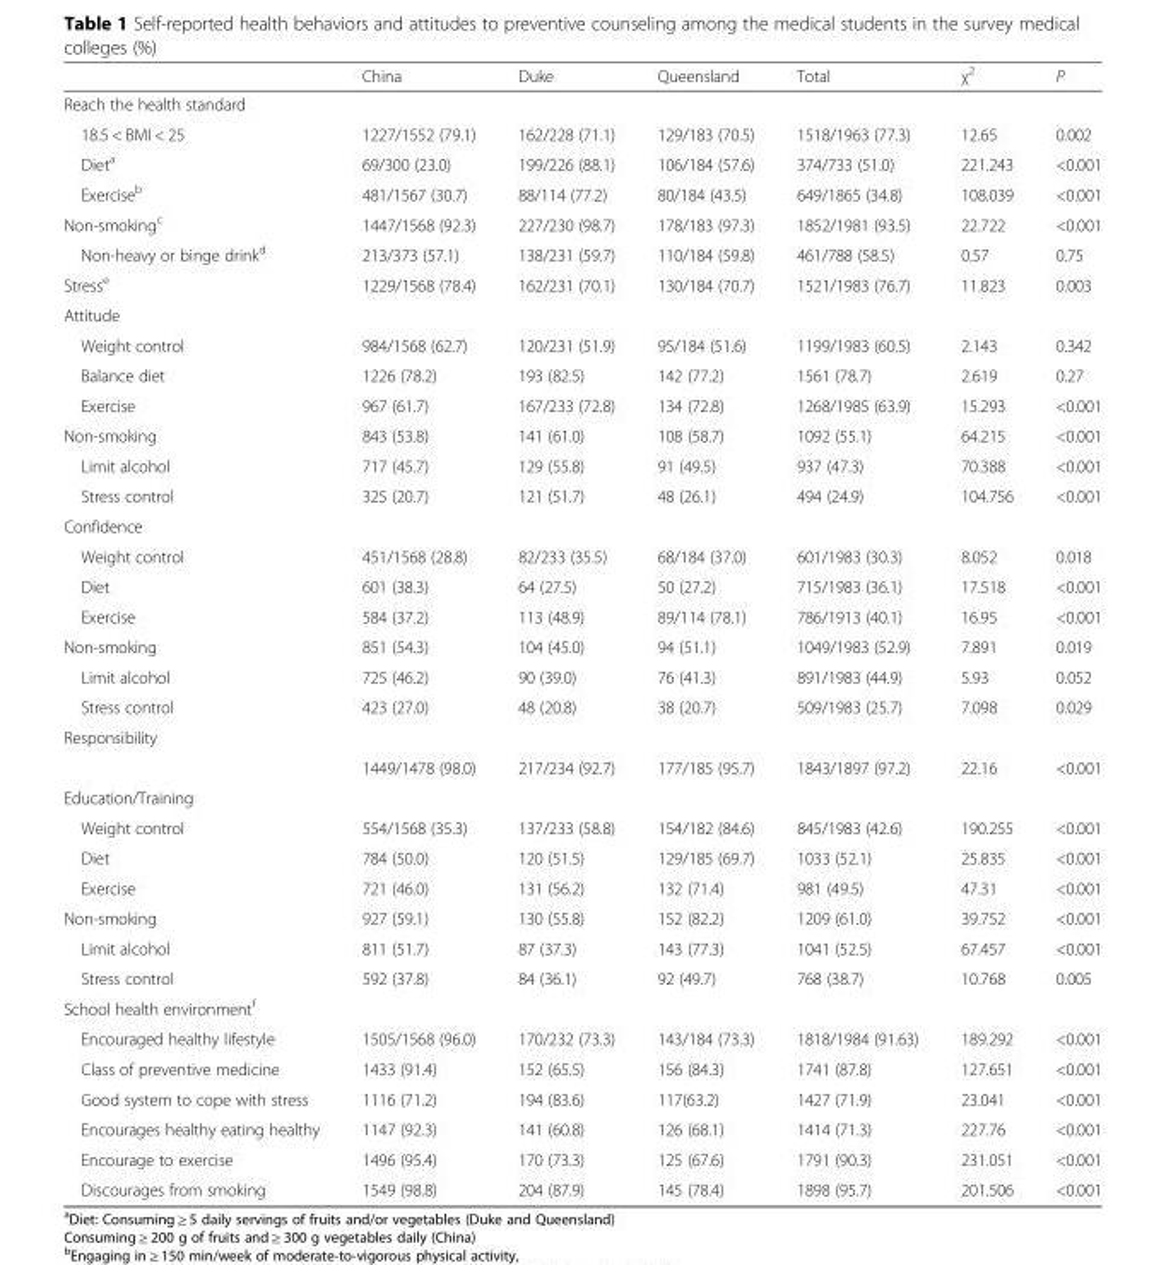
<table><thead><tr><td></td><td>China</td><td>Duke</td><td>Queensland</td><td>Total</td><td>χ<sup>2</sup></td><td>P</td></tr></thead><tbody><tr><td colspan="7">Reach the health standard</td></tr><tr><td>18.5 &lt; BMI &lt; 25</td><td>1227/1552 (79.1)</td><td>162/228 (71.1)</td><td>129/183 (70.5)</td><td>1518/1963 (77.3)</td><td>12.65</td><td>0.002</td></tr><tr><td>Diet<sup>a</sup></td><td>69/300 (23.0)</td><td>199/226 (88.1)</td><td>106/184 (57.6)</td><td>374/733 (51.0)</td><td>221.243</td><td>&lt;0.001</td></tr><tr><td>Exercise<sup>b</sup></td><td>481/1567 (30.7)</td><td>88/114 (77.2)</td><td>80/184 (43.5)</td><td>649/1865 (34.8)</td><td>108.039</td><td>&lt;0.001</td></tr><tr><td>Non-smoking<sup>c</sup></td><td>1447/1568 (92.3)</td><td>227/230 (98.7)</td><td>178/183 (97.3)</td><td>1852/1981 (93.5)</td><td>22.722</td><td>&lt;0.001</td></tr><tr><td>Non-heavy or binge drink<sup>d</sup></td><td>213/373 (57.1)</td><td>138/231 (59.7)</td><td>110/184 (59.8)</td><td>461/788 (58.5)</td><td>0.57</td><td>0.75</td></tr><tr><td>Stress<sup>e</sup></td><td>1229/1568 (78.4)</td><td>162/231 (70.1)</td><td>130/184 (70.7)</td><td>1521/1983 (76.7)</td><td>11.823</td><td>0.003</td></tr><tr><td colspan="7">Attitude</td></tr><tr><td>Weight control</td><td>984/1568 (62.7)</td><td>120/231 (51.9)</td><td>95/184 (51.6)</td><td>1199/1983 (60.5)</td><td>2.143</td><td>0.342</td></tr><tr><td>Balance diet</td><td>1226 (78.2)</td><td>193 (82.5)</td><td>142 (77.2)</td><td>1561 (78.7)</td><td>2.619</td><td>0.27</td></tr><tr><td>Exercise</td><td>967 (61.7)</td><td>167/233 (72.8)</td><td>134 (72.8)</td><td>1268/1985 (63.9)</td><td>15.293</td><td>&lt;0.001</td></tr><tr><td>Non-smoking</td><td>843 (53.8)</td><td>141 (61.0)</td><td>108 (58.7)</td><td>1092 (55.1)</td><td>64.215</td><td>&lt;0.001</td></tr><tr><td>Limit alcohol</td><td>717 (45.7)</td><td>129 (55.8)</td><td>91 (49.5)</td><td>937 (47.3)</td><td>70.388</td><td>&lt;0.001</td></tr><tr><td>Stress control</td><td>325 (20.7)</td><td>121 (51.7)</td><td>48 (26.1)</td><td>494 (24.9)</td><td>104.756</td><td>&lt;0.001</td></tr><tr><td colspan="7">Confidence</td></tr><tr><td>Weight control</td><td>451/1568 (28.8)</td><td>82/233 (35.5)</td><td>68/184 (37.0)</td><td>601/1983 (30.3)</td><td>8.052</td><td>0.018</td></tr><tr><td>Diet</td><td>601 (38.3)</td><td>64 (27.5)</td><td>50 (27.2)</td><td>715/1983 (36.1)</td><td>17.518</td><td>&lt;0.001</td></tr><tr><td>Exercise</td><td>584 (37.2)</td><td>113 (48.9)</td><td>89/114 (78.1)</td><td>786/1913 (40.1)</td><td>16.95</td><td>&lt;0.001</td></tr><tr><td>Non-smoking</td><td>851 (54.3)</td><td>104 (45.0)</td><td>94 (51.1)</td><td>1049/1983 (52.9)</td><td>7.891</td><td>0.019</td></tr><tr><td>Limit alcohol</td><td>725 (46.2)</td><td>90 (39.0)</td><td>76 (41.3)</td><td>891/1983 (44.9)</td><td>5.93</td><td>0.052</td></tr><tr><td>Stress control</td><td>423 (27.0)</td><td>48 (20.8)</td><td>38 (20.7)</td><td>509/1983 (25.7)</td><td>7.098</td><td>0.029</td></tr><tr><td colspan="7">Responsibility</td></tr><tr><td></td><td>1449/1478 (98.0)</td><td>217/234 (92.7)</td><td>177/185 (95.7)</td><td>1843/1897 (97.2)</td><td>22.16</td><td>&lt;0.001</td></tr><tr><td colspan="7">Education/Training</td></tr><tr><td>Weight control</td><td>554/1568 (35.3)</td><td>137/233 (58.8)</td><td>154/182 (84.6)</td><td>845/1983 (42.6)</td><td>190.255</td><td>&lt;0.001</td></tr><tr><td>Diet</td><td>784 (50.0)</td><td>120 (51.5)</td><td>129/185 (69.7)</td><td>1033 (52.1)</td><td>25.835</td><td>&lt;0.001</td></tr><tr><td>Exercise</td><td>721 (46.0)</td><td>131 (56.2)</td><td>132 (71.4)</td><td>981 (49.5)</td><td>47.31</td><td>&lt;0.001</td></tr><tr><td>Non-smoking</td><td>927 (59.1)</td><td>130 (55.8)</td><td>152 (82.2)</td><td>1209 (61.0)</td><td>39.752</td><td>&lt;0.001</td></tr><tr><td>Limit alcohol</td><td>811 (51.7)</td><td>87 (37.3)</td><td>143 (77.3)</td><td>1041 (52.5)</td><td>67.457</td><td>&lt;0.001</td></tr><tr><td>Stress control</td><td>592 (37.8)</td><td>84 (36.1)</td><td>92 (49.7)</td><td>768 (38.7)</td><td>10.768</td><td>0.005</td></tr><tr><td colspan="7">School health environment<sup>f</sup></td></tr><tr><td>Encouraged healthy lifestyle</td><td>1505/1568 (96.0)</td><td>170/232 (73.3)</td><td>143/184 (73.3)</td><td>1818/1984 (91.63)</td><td>189.292</td><td>&lt;0.001</td></tr><tr><td>Class of preventive medicine</td><td>1433 (91.4)</td><td>152 (65.5)</td><td>156 (84.3)</td><td>1741 (87.8)</td><td>127.651</td><td>&lt;0.001</td></tr><tr><td>Good system to cope with stress</td><td>1116 (71.2)</td><td>194 (83.6)</td><td>117(63.2)</td><td>1427 (71.9)</td><td>23.041</td><td>&lt;0.001</td></tr><tr><td>Encourages healthy eating healthy</td><td>1147 (92.3)</td><td>141 (60.8)</td><td>126 (68.1)</td><td>1414 (71.3)</td><td>227.76</td><td>&lt;0.001</td></tr><tr><td>Encourage to exercise</td><td>1496 (95.4)</td><td>170 (73.3)</td><td>125 (67.6)</td><td>1791 (90.3)</td><td>231.051</td><td>&lt;0.001</td></tr><tr><td>Discourages from smoking</td><td>1549 (98.8)</td><td>204 (87.9)</td><td>145 (78.4)</td><td>1898 (95.7)</td><td>201.506</td><td>&lt;0.001</td></tr></tbody></table>